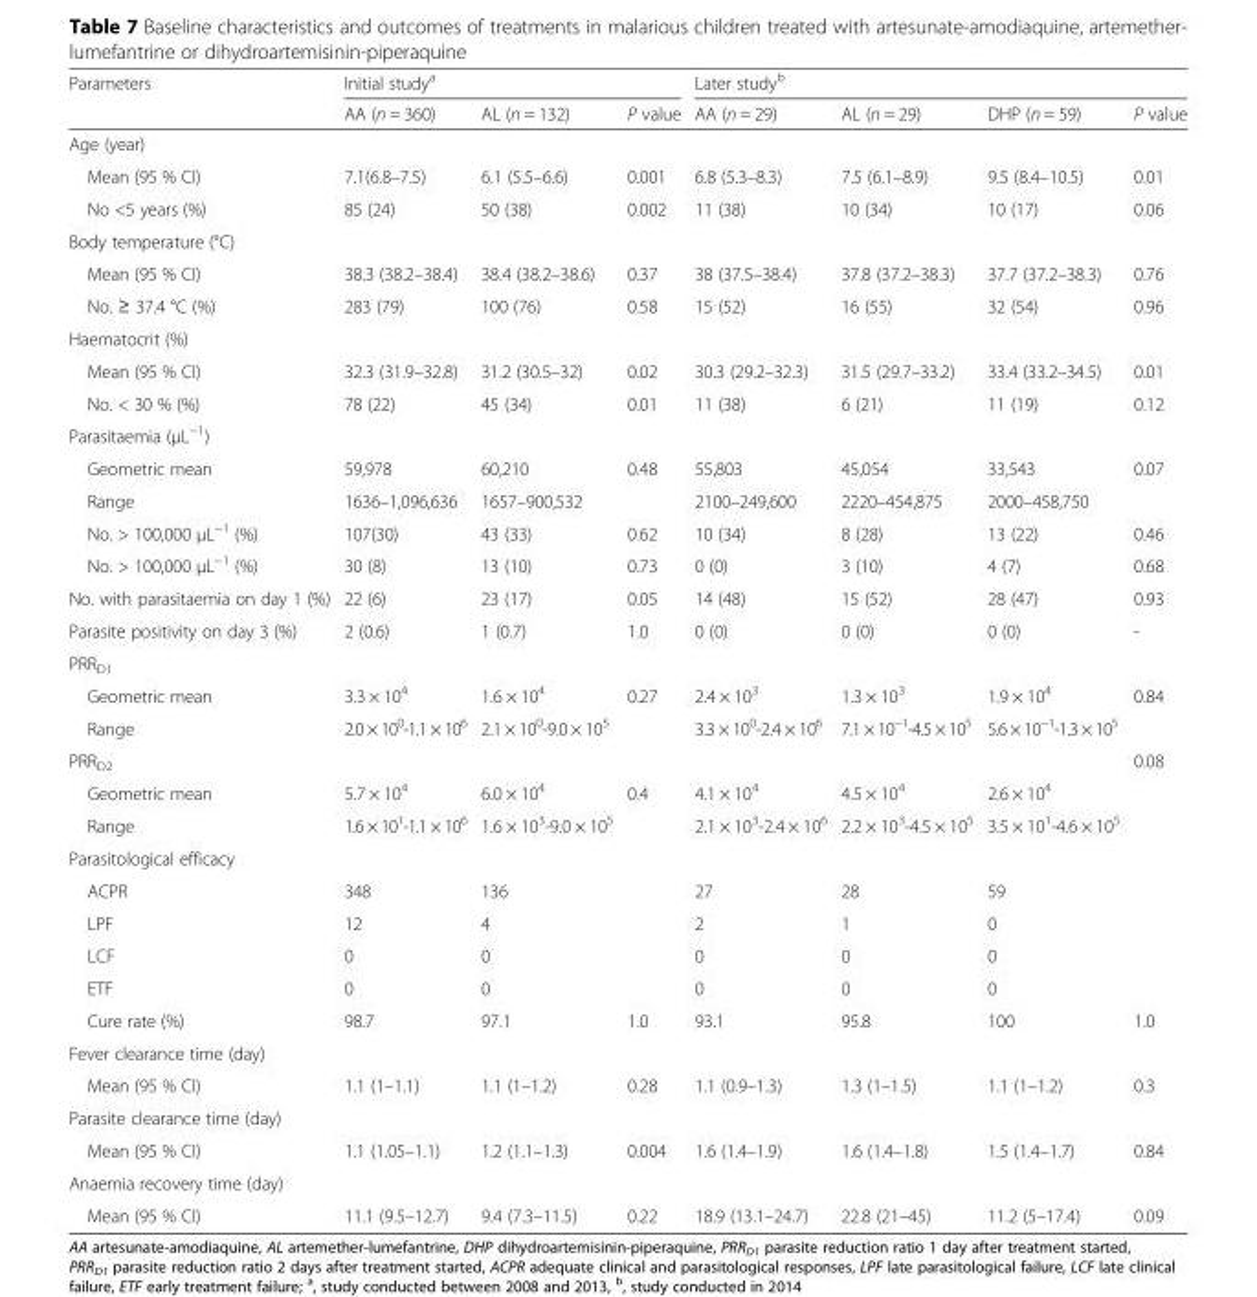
<table><thead><tr><td rowspan="2">Parameters</td><td colspan="3">Initial study<sup>a</sup></td><td colspan="4">Later study<sup>b</sup></td></tr><tr><td>AA (n = 360)</td><td>AL (n = 132)</td><td>P value</td><td>AA (n = 29)</td><td>AL (n = 29)</td><td>DHP (n = 59)</td><td>P value</td></tr></thead><tbody><tr><td colspan="8">Age (year)</td></tr><tr><td>Mean (95 % CI)</td><td>7.1(6.8–7.5)</td><td>6.1 (5.5–6.6)</td><td>0.001</td><td>6.8 (5.3–8.3)</td><td>7.5 (6.1–8.9)</td><td>9.5 (8.4–10.5)</td><td>0.01</td></tr><tr><td>No &lt;5 years (%)</td><td>85 (24)</td><td>50 (38)</td><td>0.002</td><td>11 (38)</td><td>10 (34)</td><td>10 (17)</td><td>0.06</td></tr><tr><td colspan="8">Body temperature (°C)</td></tr><tr><td>Mean (95 % CI)</td><td>38.3 (38.2–38.4)</td><td>38.4 (38.2–38.6)</td><td>0.37</td><td>38 (37.5–38.4)</td><td>37.8 (37.2–38.3)</td><td>37.7 (37.2–38.3)</td><td>0.76</td></tr><tr><td>No. ≥ 37.4 °C (%)</td><td>283 (79)</td><td>100 (76)</td><td>0.58</td><td>15 (52)</td><td>16 (55)</td><td>32 (54)</td><td>0.96</td></tr><tr><td colspan="8">Haematocrit (%)</td></tr><tr><td>Mean (95 % CI)</td><td>32.3 (31.9–32.8)</td><td>31.2 (30.5–32)</td><td>0.02</td><td>30.3 (29.2–32.3)</td><td>31.5 (29.7–33.2)</td><td>33.4 (33.2–34.5)</td><td>0.01</td></tr><tr><td>No. &lt; 30 % (%)</td><td>78 (22)</td><td>45 (34)</td><td>0.01</td><td>11 (38)</td><td>6 (21)</td><td>11 (19)</td><td>0.12</td></tr><tr><td colspan="8">Parasitaemia (μL<sup>−1</sup>)</td></tr><tr><td>Geometric mean</td><td>59,978</td><td>60,210</td><td>0.48</td><td>55,803</td><td>45,054</td><td>33,543</td><td>0.07</td></tr><tr><td>Range</td><td>1636–1,096,636</td><td>1657–900,532</td><td></td><td>2100–249,600</td><td>2220–454,875</td><td>2000–458,750</td><td></td></tr><tr><td>No. &gt; 100,000 μL<sup>−1</sup> (%)</td><td>107(30)</td><td>43 (33)</td><td>0.62</td><td>10 (34)</td><td>8 (28)</td><td>13 (22)</td><td>0.46</td></tr><tr><td>No. &gt; 100,000 μL<sup>−1</sup> (%)</td><td>30 (8)</td><td>13 (10)</td><td>0.73</td><td>0 (0)</td><td>3 (10)</td><td>4 (7)</td><td>0.68</td></tr><tr><td>No. with parasitaemia on day 1 (%)</td><td>22 (6)</td><td>23 (17)</td><td>0.05</td><td>14 (48)</td><td>15 (52)</td><td>28 (47)</td><td>0.93</td></tr><tr><td>Parasite positivity on day 3 (%)</td><td>2 (0.6)</td><td>1 (0.7)</td><td>1.0</td><td>0 (0)</td><td>0 (0)</td><td>0 (0)</td><td>-</td></tr><tr><td colspan="8">PRR<sub>D1</sub></td></tr><tr><td>Geometric mean</td><td>3.3 × 10<sup>4</sup></td><td>1.6 × 10<sup>4</sup></td><td>0.27</td><td>2.4 × 10<sup>3</sup></td><td>1.3 × 10<sup>3</sup></td><td>1.9 × 10<sup>4</sup></td><td rowspan="2">0.84</td></tr><tr><td>Range</td><td>2.0 × 10<sup>0</sup>-1.1 × 10<sup>6</sup></td><td>2.1 × 10<sup>0</sup>-9.0 × 10<sup>5</sup></td><td></td><td>3.3 × 10<sup>0</sup>-2.4 × 10<sup>6</sup></td><td>7.1 × 10<sup>−1</sup>-4.5 × 10<sup>5</sup></td><td>5.6 × 10<sup>−1</sup>-1.3 × 10<sup>5</sup></td></tr><tr><td colspan="7">PRR<sub>D2</sub></td><td rowspan="3">0.08</td></tr><tr><td>Geometric mean</td><td>5.7 × 10<sup>4</sup></td><td>6.0 × 10<sup>4</sup></td><td>0.4</td><td>4.1 × 10<sup>4</sup></td><td>4.5 × 10<sup>4</sup></td><td>2.6 × 10<sup>4</sup></td></tr><tr><td>Range</td><td>1.6 × 10<sup>1</sup>-1.1 × 10<sup>6</sup></td><td>1.6 × 10<sup>3</sup>-9.0 × 10<sup>5</sup></td><td></td><td>2.1 × 10<sup>3</sup>-2.4 × 10<sup>6</sup></td><td>2.2 × 10<sup>3</sup>-4.5 × 10<sup>5</sup></td><td>3.5 × 10<sup>1</sup>-4.6 × 10<sup>5</sup></td></tr><tr><td colspan="8">Parasitological efficacy</td></tr><tr><td>ACPR</td><td>348</td><td>136</td><td></td><td>27</td><td>28</td><td>59</td><td></td></tr><tr><td>LPF</td><td>12</td><td>4</td><td></td><td>2</td><td>1</td><td>0</td><td></td></tr><tr><td>LCF</td><td>0</td><td>0</td><td></td><td>0</td><td>0</td><td>0</td><td></td></tr><tr><td>ETF</td><td>0</td><td>0</td><td></td><td>0</td><td>0</td><td>0</td><td></td></tr><tr><td>Cure rate (%)</td><td>98.7</td><td>97.1</td><td>1.0</td><td>93.1</td><td>95.8</td><td>100</td><td>1.0</td></tr><tr><td colspan="8">Fever clearance time (day)</td></tr><tr><td>Mean (95 % CI)</td><td>1.1 (1–1.1)</td><td>1.1 (1–1.2)</td><td>0.28</td><td>1.1 (0.9–1.3)</td><td>1.3 (1–1.5)</td><td>1.1 (1–1.2)</td><td>0.3</td></tr><tr><td colspan="8">Parasite clearance time (day)</td></tr><tr><td>Mean (95 % CI)</td><td>1.1 (1.05–1.1)</td><td>1.2 (1.1–1.3)</td><td>0.004</td><td>1.6 (1.4–1.9)</td><td>1.6 (1.4–1.8)</td><td>1.5 (1.4–1.7)</td><td>0.84</td></tr><tr><td colspan="8">Anaemia recovery time (day)</td></tr><tr><td>Mean (95 % CI)</td><td>11.1 (9.5–12.7)</td><td>9.4 (7.3–11.5)</td><td>0.22</td><td>18.9 (13.1–24.7)</td><td>22.8 (21–45)</td><td>11.2 (5–17.4)</td><td>0.09</td></tr></tbody></table>